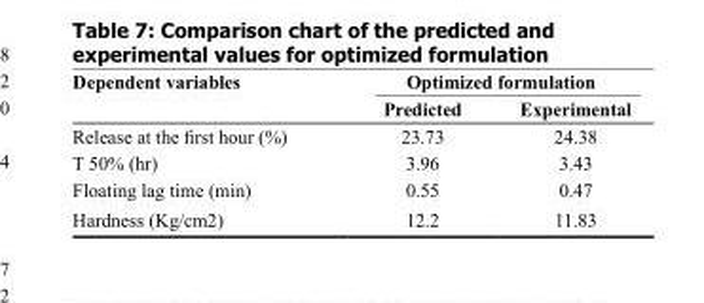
<table><thead><tr><td rowspan="2">Dependent variables</td><td colspan="2">Optimized formulation</td></tr><tr><td>Predicted</td><td>Experimental</td></tr></thead><tbody><tr><td>Release at the first hour (%)</td><td>23.73</td><td>24.38</td></tr><tr><td>T 50% (hr)</td><td>3.96</td><td>3.43</td></tr><tr><td>Floating lag time (min)</td><td>0.55</td><td>0.47</td></tr><tr><td>Hardness (Kg/cm2)</td><td>12.2</td><td>11.83</td></tr></tbody></table>